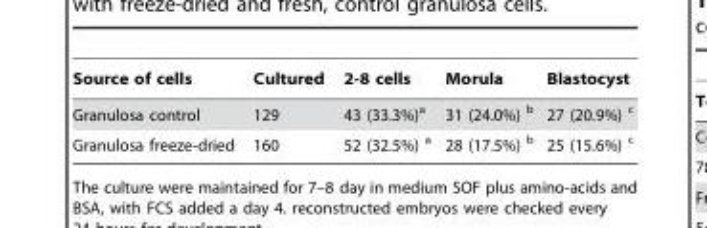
<table><thead><tr><td>Source of cells</td><td>Cultured</td><td>2-8 cells</td><td>Morula</td><td>Blastocyst</td></tr></thead><tbody><tr><td>Granulosa control</td><td>129</td><td>43 (33.3%)<sup>a</sup></td><td>31 (24.0%) b</td><td>27 (20.9%) c</td></tr><tr><td>Granulosa freeze-dried</td><td>160</td><td>52 (32.5%) a</td><td>28 (17.5%) b</td><td>25 (15.6%) c</td></tr></tbody></table>